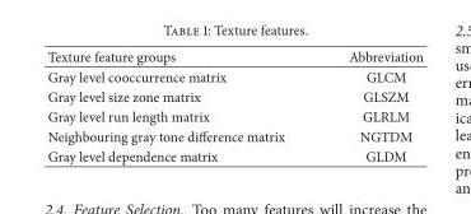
<table><thead><tr><td>Texture feature groups</td><td>Abbreviation</td></tr></thead><tbody><tr><td>Gray level cooccurrence matrix</td><td>GLCM</td></tr><tr><td>Gray level size zone matrix</td><td>GLSZM</td></tr><tr><td>Gray level run length matrix</td><td>GLRLM</td></tr><tr><td>Neighbouring gray tone difference matrix</td><td>NGTDM</td></tr><tr><td>Gray level dependence matrix</td><td>GLDM</td></tr></tbody></table>